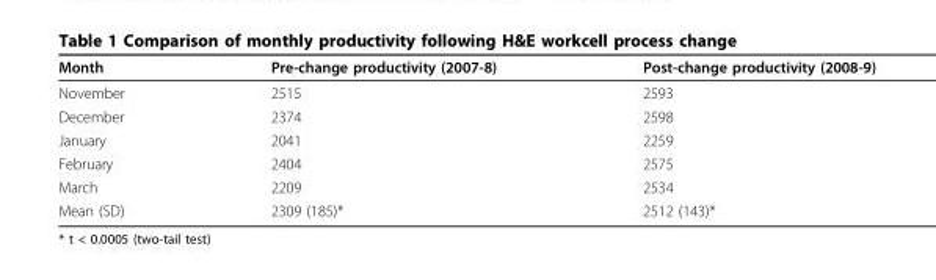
<table><thead><tr><td>Month</td><td>Pre-change productivity (2007-8)</td><td>Post-change productivity (2008-9)</td></tr></thead><tbody><tr><td>November</td><td>2515</td><td>2593</td></tr><tr><td>December</td><td>2374</td><td>2598</td></tr><tr><td>January</td><td>2041</td><td>2259</td></tr><tr><td>February</td><td>2404</td><td>2575</td></tr><tr><td>March</td><td>2209</td><td>2534</td></tr><tr><td>Mean (SD)</td><td>2309 (185)*</td><td>2512 (143)*</td></tr></tbody></table>